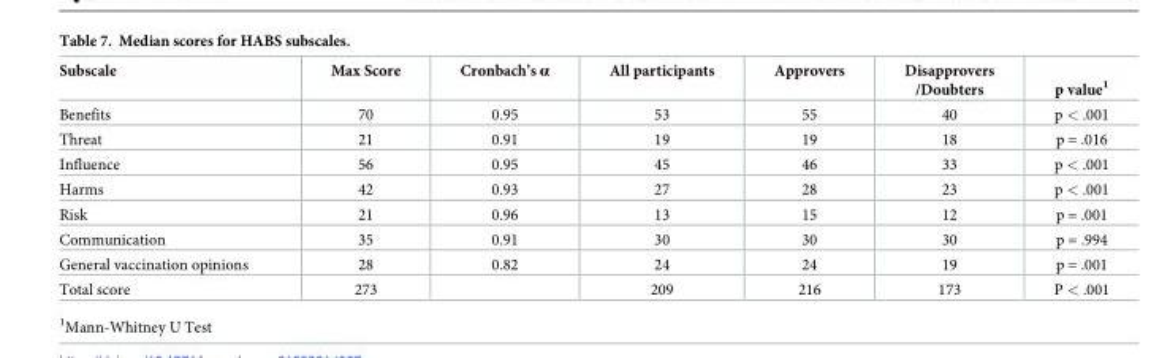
<table><thead><tr><td>Subscale</td><td>Max Score</td><td>Cronbach’s α</td><td>All participants</td><td>Approvers</td><td>Disapprovers /Doubters</td><td>p value<sup>1</sup></td></tr></thead><tbody><tr><td>Benefits</td><td>70</td><td>0.95</td><td>53</td><td>55</td><td>40</td><td>p &lt; .001</td></tr><tr><td>Threat</td><td>21</td><td>0.91</td><td>19</td><td>19</td><td>18</td><td>p = .016</td></tr><tr><td>Influence</td><td>56</td><td>0.95</td><td>45</td><td>46</td><td>33</td><td>p &lt; .001</td></tr><tr><td>Harms</td><td>42</td><td>0.93</td><td>27</td><td>28</td><td>23</td><td>p &lt; .001</td></tr><tr><td>Risk</td><td>21</td><td>0.96</td><td>13</td><td>15</td><td>12</td><td>p = .001</td></tr><tr><td>Communication</td><td>35</td><td>0.91</td><td>30</td><td>30</td><td>30</td><td>p = .994</td></tr><tr><td>General vaccination opinions</td><td>28</td><td>0.82</td><td>24</td><td>24</td><td>19</td><td>p = .001</td></tr><tr><td>Total score</td><td>273</td><td></td><td>209</td><td>216</td><td>173</td><td>P &lt; .001</td></tr></tbody></table>